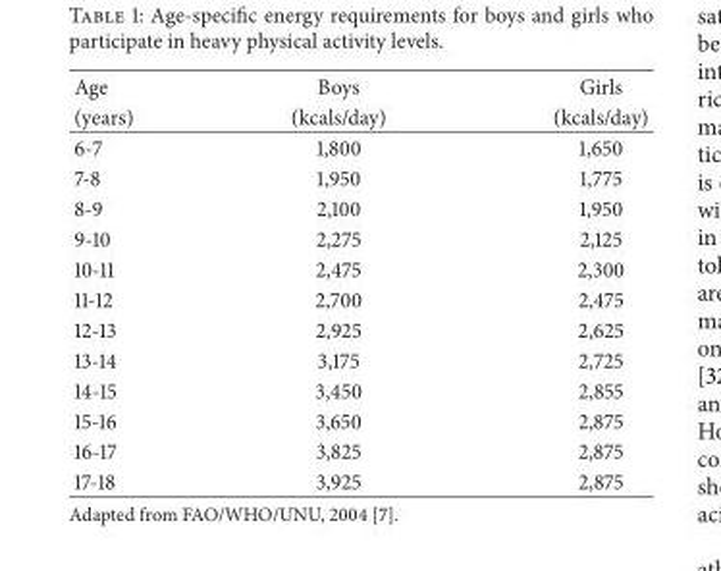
<table><thead><tr><td rowspan="2">Age (years)</td><td rowspan="2">Boys (kcals/day)</td><td rowspan="2">Girls (kcals/day)</td></tr><tr></tr></thead><tbody><tr><td>6-7</td><td>1,800</td><td>1,650</td></tr><tr><td>7-8</td><td>1,950</td><td>1,775</td></tr><tr><td>8-9</td><td>2,100</td><td>1,950</td></tr><tr><td>9-10</td><td>2,275</td><td>2,125</td></tr><tr><td>10-11</td><td>2,475</td><td>2,300</td></tr><tr><td>11-12</td><td>2,700</td><td>2,475</td></tr><tr><td>12-13</td><td>2,925</td><td>2,625</td></tr><tr><td>13-14</td><td>3,175</td><td>2,725</td></tr><tr><td>14-15</td><td>3,450</td><td>2,855</td></tr><tr><td>15-16</td><td>3,650</td><td>2,875</td></tr><tr><td>16-17</td><td>3,825</td><td>2,875</td></tr><tr><td>17-18</td><td>3,925</td><td>2,875</td></tr></tbody></table>